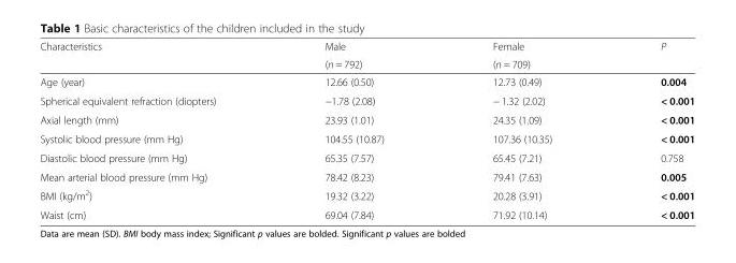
<table><thead><tr><td rowspan="2">Characteristics</td><td rowspan="2">Male (n = 792)</td><td rowspan="2">Female (n = 709)</td><td rowspan="2">P</td></tr><tr></tr></thead><tbody><tr><td>Age (year)</td><td>12.66 (0.50)</td><td>12.73 (0.49)</td><td>0.004</td></tr><tr><td>Spherical equivalent refraction (diopters)</td><td>−1.78 (2.08)</td><td>− 1.32 (2.02)</td><td>&lt; 0.001</td></tr><tr><td>Axial length (mm)</td><td>23.93 (1.01)</td><td>24.35 (1.09)</td><td>&lt; 0.001</td></tr><tr><td>Systolic blood pressure (mm Hg)</td><td>104.55 (10.87)</td><td>107.36 (10.35)</td><td>&lt; 0.001</td></tr><tr><td>Diastolic blood pressure (mm Hg)</td><td>65.35 (7.57)</td><td>65.45 (7.21)</td><td>0.758</td></tr><tr><td>Mean arterial blood pressure (mm Hg)</td><td>78.42 (8.23)</td><td>79.41 (7.63)</td><td>0.005</td></tr><tr><td>BMI (kg/m<sup>2</sup>)</td><td>19.32 (3.22)</td><td>20.28 (3.91)</td><td>&lt; 0.001</td></tr><tr><td>Waist (cm)</td><td>69.04 (7.84)</td><td>71.92 (10.14)</td><td>&lt; 0.001</td></tr></tbody></table>